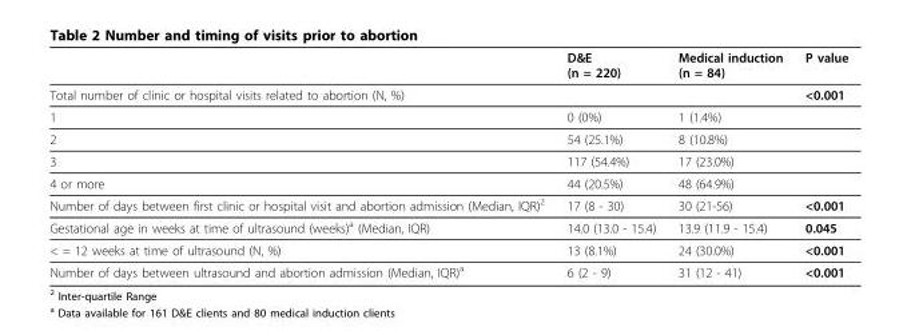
<table><thead><tr><td></td><td>D&amp;E (n = 220)</td><td>Medical induction (n = 84)</td><td>P value</td></tr></thead><tbody><tr><td>Total number of clinic or hospital visits related to abortion (N, %)</td><td></td><td></td><td>&lt;0.001</td></tr><tr><td>1</td><td>0 (0%)</td><td>1 (1.4%)</td><td></td></tr><tr><td>2</td><td>54 (25.1%)</td><td>8 (10.8%)</td><td></td></tr><tr><td>3</td><td>117 (54.4%)</td><td>17 (23.0%)</td><td></td></tr><tr><td>4 or more</td><td>44 (20.5%)</td><td>48 (64.9%)</td><td></td></tr><tr><td>Number of days between first clinic or hospital visit and abortion admission (Median, IQR)<sup>2</sup></td><td>17 (8 - 30)</td><td>30 (21-56)</td><td>&lt;0.001</td></tr><tr><td>Gestational age in weeks at time of ultrasound (weeks)<sup>a</sup> (Median, IQR)</td><td>14.0 (13.0 - 15.4)</td><td>13.9 (11.9 - 15.4)</td><td>0.045</td></tr><tr><td>&lt; = 12 weeks at time of ultrasound (N, %)</td><td>13 (8.1%)</td><td>24 (30.0%)</td><td>&lt;0.001</td></tr><tr><td>Number of days between ultrasound and abortion admission (Median, IQR)<sup>a</sup></td><td>6 (2 - 9)</td><td>31 (12 - 41)</td><td>&lt;0.001</td></tr></tbody></table>